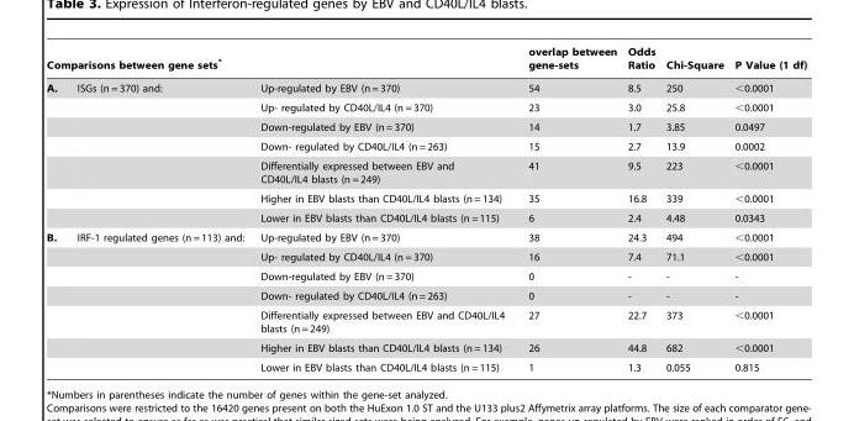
<table><thead><tr><td colspan="3">Comparisons between gene sets*</td><td rowspan="2">overlap between gene-sets 54</td><td rowspan="2">Odds Ratio 8.5</td><td rowspan="2">Chi-Square 250</td><td rowspan="2">P Value (1 df) &lt;0.0001</td></tr><tr><td>A.</td><td>ISGs (n = 370) and:</td><td>Up-regulated by EBV (n = 370)</td></tr></thead><tbody><tr><td></td><td></td><td>Up- regulated by CD40L/IL4 (n = 370)</td><td>23</td><td>3.0</td><td>25.8</td><td>&lt;0.0001</td></tr><tr><td></td><td></td><td>Down-regulated by EBV (n = 370)</td><td>14</td><td>1.7</td><td>3.85</td><td>0.0497</td></tr><tr><td></td><td></td><td>Down- regulated by CD40L/IL4 (n = 263)</td><td>15</td><td>2.7</td><td>13.9</td><td>0.0002</td></tr><tr><td></td><td></td><td>Differentially expressed between EBV and CD40L/IL4 blasts (n = 249)</td><td>41</td><td>9.5</td><td>223</td><td>&lt;0.0001</td></tr><tr><td></td><td></td><td>Higher in EBV blasts than CD40L/IL4 blasts (n = 134)</td><td>35</td><td>16.8</td><td>339</td><td>&lt;0.0001</td></tr><tr><td></td><td></td><td>Lower in EBV blasts than CD40L/IL4 blasts (n = 115)</td><td>6</td><td>2.4</td><td>4.48</td><td>0.0343</td></tr><tr><td rowspan="7">B.</td><td>IRF-1 regulated genes (n = 113) and:</td><td>Up-regulated by EBV (n = 370)</td><td>38</td><td>24.3</td><td>494</td><td>&lt;0.0001</td></tr><tr><td></td><td>Up- regulated by CD40L/IL4 (n = 370)</td><td>16</td><td>7.4</td><td>71.1</td><td>&lt;0.0001</td></tr><tr><td></td><td>Down-regulated by EBV (n = 370)</td><td>0</td><td>-</td><td>-</td><td>-</td></tr><tr><td></td><td>Down- regulated by CD40L/IL4 (n = 263)</td><td>0</td><td>-</td><td>-</td><td>-</td></tr><tr><td></td><td>Differentially expressed between EBV and CD40L/IL4 blasts (n = 249)</td><td>27</td><td>22.7</td><td>373</td><td>&lt;0.0001</td></tr><tr><td></td><td>Higher in EBV blasts than CD40L/IL4 blasts (n = 134)</td><td>26</td><td>44.8</td><td>682</td><td>&lt;0.0001</td></tr><tr><td></td><td>Lower in EBV blasts than CD40L/IL4 blasts (n = 115)</td><td>1</td><td>1.3</td><td>0.055</td><td>0.815</td></tr></tbody></table>